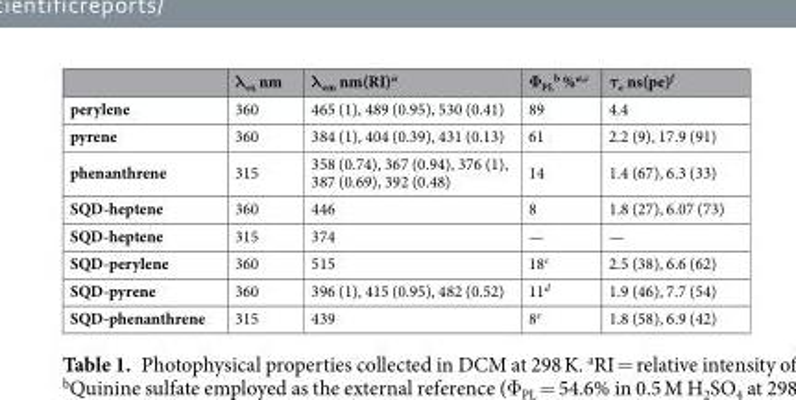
<table><thead><tr><td></td><td>λ<sub>ex</sub> nm</td><td>λ<sub>em</sub> nm(RI)<sup>a</sup></td><td>Φ<sub>PL</sub> <sup>b</sup> %<sup>a,c</sup></td><td>τ<sub>e</sub> ns(pe)<sup>f</sup></td></tr></thead><tbody><tr><td>perylene</td><td>360</td><td>465 (1), 489 (0.95), 530 (0.41)</td><td>89</td><td>4.4</td></tr><tr><td>pyrene</td><td>360</td><td>384 (1), 404 (0.39), 431 (0.13)</td><td>61</td><td>2.2 (9), 17.9 (91)</td></tr><tr><td>phenanthrene</td><td>315</td><td>358 (0.74), 367 (0.94), 376 (1), 387 (0.69), 392 (0.48)</td><td>14</td><td>1.4 (67), 6.3 (33)</td></tr><tr><td>SQD-heptene</td><td>360</td><td>446</td><td>8</td><td>1.8 (27), 6.07 (73)</td></tr><tr><td>SQD-heptene</td><td>315</td><td>374</td><td>—</td><td>—</td></tr><tr><td>SQD-perylene</td><td>360</td><td>515</td><td>18<sup>c</sup></td><td>2.5 (38), 6.6 (62)</td></tr><tr><td>SQD-pyrene</td><td>360</td><td>396 (1), 415 (0.95), 482 (0.52)</td><td>11<sup>d</sup></td><td>1.9 (46), 7.7 (54)</td></tr><tr><td>SQD-phenanthrene</td><td>315</td><td>439</td><td>8<sup>e</sup></td><td>1.8 (58), 6.9 (42)</td></tr></tbody></table>